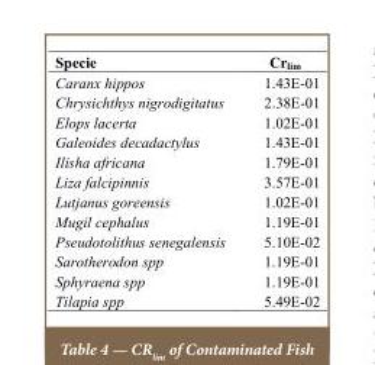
<table><thead><tr><td>Specie</td><td>Cr<sub>lim</sub></td></tr></thead><tbody><tr><td>Caranx hippos</td><td>1.43E-01</td></tr><tr><td>Chrysichthys nigrodigitatus</td><td>2.38E-01</td></tr><tr><td>Elops lacerta</td><td>1.02E-01</td></tr><tr><td>Galeoides decadactylus</td><td>1.43E-01</td></tr><tr><td>Ilisha africana</td><td>1.79E-01</td></tr><tr><td>Liza falcipinnis</td><td>3.57E-01</td></tr><tr><td>Lutjanus goreensis</td><td>1.02E-01</td></tr><tr><td>Mugil cephalus</td><td>1.19E-01</td></tr><tr><td>Pseudotolithus senegalensis</td><td>5.10E-02</td></tr><tr><td>Sarotherodon spp</td><td>1.19E-01</td></tr><tr><td>Sphyraena spp</td><td>1.19E-01</td></tr><tr><td>Tilapia spp</td><td>5.49E-02</td></tr></tbody></table>